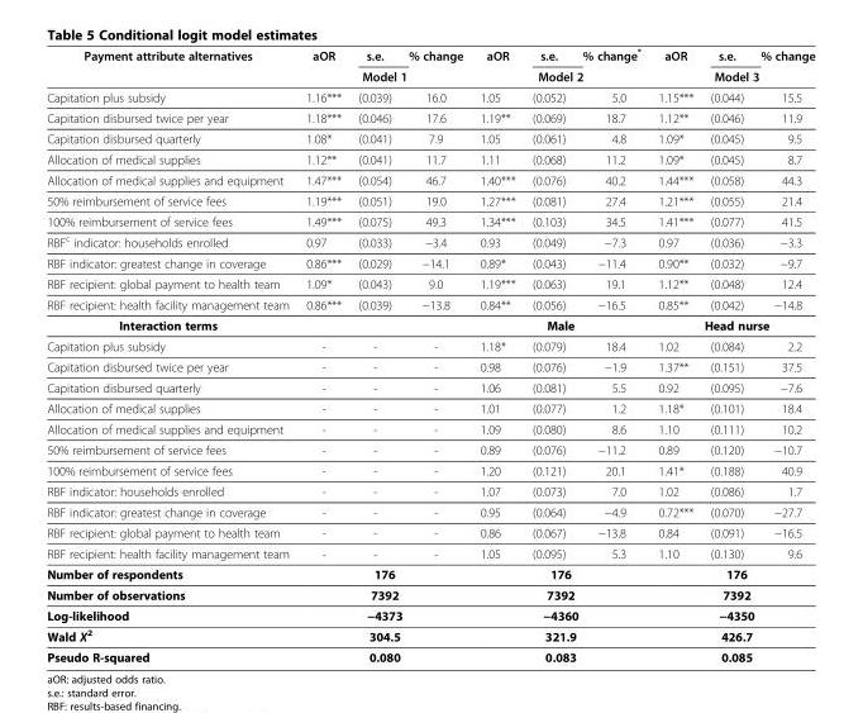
<table><thead><tr><td rowspan="2">Payment attribute alternatives</td><td>aOR</td><td>s.e.</td><td>% change</td><td>aOR</td><td>s.e.</td><td>% change*</td><td>aOR</td><td>s.e.</td><td>% change</td></tr><tr><td colspan="3">Model 1</td><td colspan="3">Model 2</td><td colspan="3">Model 3</td></tr></thead><tbody><tr><td>Capitation plus subsidy</td><td>1.16***</td><td>(0.039)</td><td>16.0</td><td>1.05</td><td>(0.052)</td><td>5.0</td><td>1.15***</td><td>(0.044)</td><td>15.5</td></tr><tr><td>Capitation disbursed twice per year</td><td>1.18***</td><td>(0.046)</td><td>17.6</td><td>1.19**</td><td>(0.069)</td><td>18.7</td><td>1.12**</td><td>(0.046)</td><td>11.9</td></tr><tr><td>Capitation disbursed quarterly</td><td>1.08*</td><td>(0.041)</td><td>7.9</td><td>1.05</td><td>(0.061)</td><td>4.8</td><td>1.09*</td><td>(0.045)</td><td>9.5</td></tr><tr><td>Allocation of medical supplies</td><td>1.12**</td><td>(0.041)</td><td>11.7</td><td>1.11</td><td>(0.068)</td><td>11.2</td><td>1.09*</td><td>(0.045)</td><td>8.7</td></tr><tr><td>Allocation of medical supplies and equipment</td><td>1.47***</td><td>(0.054)</td><td>46.7</td><td>1.40***</td><td>(0.076)</td><td>40.2</td><td>1.44***</td><td>(0.058)</td><td>44.3</td></tr><tr><td>50% reimbursement of service fees</td><td>1.19***</td><td>(0.051)</td><td>19.0</td><td>1.27***</td><td>(0.081)</td><td>27.4</td><td>1.21***</td><td>(0.055)</td><td>21.4</td></tr><tr><td>100% reimbursement of service fees</td><td>1.49***</td><td>(0.075)</td><td>49.3</td><td>1.34***</td><td>(0.103)</td><td>34.5</td><td>1.41***</td><td>(0.077)</td><td>41.5</td></tr><tr><td>RBF<sup>c</sup> indicator: households enrolled</td><td>0.97</td><td>(0.033)</td><td>−3.4</td><td>0.93</td><td>(0.049)</td><td>−7.3</td><td>0.97</td><td>(0.036)</td><td>−3.3</td></tr><tr><td>RBF indicator: greatest change in coverage</td><td>0.86***</td><td>(0.029)</td><td>−14.1</td><td>0.89*</td><td>(0.043)</td><td>−11.4</td><td>0.90**</td><td>(0.032)</td><td>−9.7</td></tr><tr><td>RBF recipient: global payment to health team</td><td>1.09*</td><td>(0.043)</td><td>9.0</td><td>1.19***</td><td>(0.063)</td><td>19.1</td><td>1.12**</td><td>(0.048)</td><td>12.4</td></tr><tr><td>RBF recipient: health facility management team</td><td>0.86***</td><td>(0.039)</td><td>−13.8</td><td>0.84**</td><td>(0.056)</td><td>−16.5</td><td>0.85**</td><td>(0.042)</td><td>−14.8</td></tr><tr><td>Interaction terms</td><td colspan="3"></td><td colspan="3">Male</td><td colspan="3">Head nurse</td></tr><tr><td>Capitation plus subsidy</td><td>-</td><td>-</td><td>-</td><td>1.18*</td><td>(0.079)</td><td>18.4</td><td>1.02</td><td>(0.084)</td><td>2.2</td></tr><tr><td>Capitation disbursed twice per year</td><td>-</td><td>-</td><td>-</td><td>0.98</td><td>(0.076)</td><td>−1.9</td><td>1.37**</td><td>(0.151)</td><td>37.5</td></tr><tr><td>Capitation disbursed quarterly</td><td>-</td><td>-</td><td>-</td><td>1.06</td><td>(0.081)</td><td>5.5</td><td>0.92</td><td>(0.095)</td><td>−7.6</td></tr><tr><td>Allocation of medical supplies</td><td>-</td><td>-</td><td>-</td><td>1.01</td><td>(0.077)</td><td>1.2</td><td>1.18*</td><td>(0.101)</td><td>18.4</td></tr><tr><td>Allocation of medical supplies and equipment</td><td>-</td><td>-</td><td>-</td><td>1.09</td><td>(0.080)</td><td>8.6</td><td>1.10</td><td>(0.111)</td><td>10.2</td></tr><tr><td>50% reimbursement of service fees</td><td>-</td><td>-</td><td>-</td><td>0.89</td><td>(0.076)</td><td>−11.2</td><td>0.89</td><td>(0.120)</td><td>−10.7</td></tr><tr><td>100% reimbursement of service fees</td><td>-</td><td>-</td><td>-</td><td>1.20</td><td>(0.121)</td><td>20.1</td><td>1.41*</td><td>(0.188)</td><td>40.9</td></tr><tr><td>RBF indicator: households enrolled</td><td>-</td><td>-</td><td>-</td><td>1.07</td><td>(0.073)</td><td>7.0</td><td>1.02</td><td>(0.086)</td><td>1.7</td></tr><tr><td>RBF indicator: greatest change in coverage</td><td>-</td><td>-</td><td>-</td><td>0.95</td><td>(0.064)</td><td>−4.9</td><td>0.72***</td><td>(0.070)</td><td>−27.7</td></tr><tr><td>RBF recipient: global payment to health team</td><td>-</td><td>-</td><td>-</td><td>0.86</td><td>(0.067)</td><td>−13.8</td><td>0.84</td><td>(0.091)</td><td>−16.5</td></tr><tr><td>RBF recipient: health facility management team</td><td>-</td><td>-</td><td>-</td><td>1.05</td><td>(0.095)</td><td>5.3</td><td>1.10</td><td>(0.130)</td><td>9.6</td></tr><tr><td>Number of respondents</td><td colspan="3">176</td><td colspan="3">176</td><td colspan="3">176</td></tr><tr><td>Number of observations</td><td colspan="3">7392</td><td colspan="3">7392</td><td colspan="3">7392</td></tr><tr><td>Log-likelihood</td><td colspan="3">−4373</td><td colspan="3">−4360</td><td colspan="3">−4350</td></tr><tr><td>Wald X<sup>2</sup></td><td colspan="3">304.5</td><td colspan="3">321.9</td><td colspan="3">426.7</td></tr><tr><td>Pseudo R-squared</td><td colspan="3">0.080</td><td colspan="3">0.083</td><td colspan="3">0.085</td></tr></tbody></table>